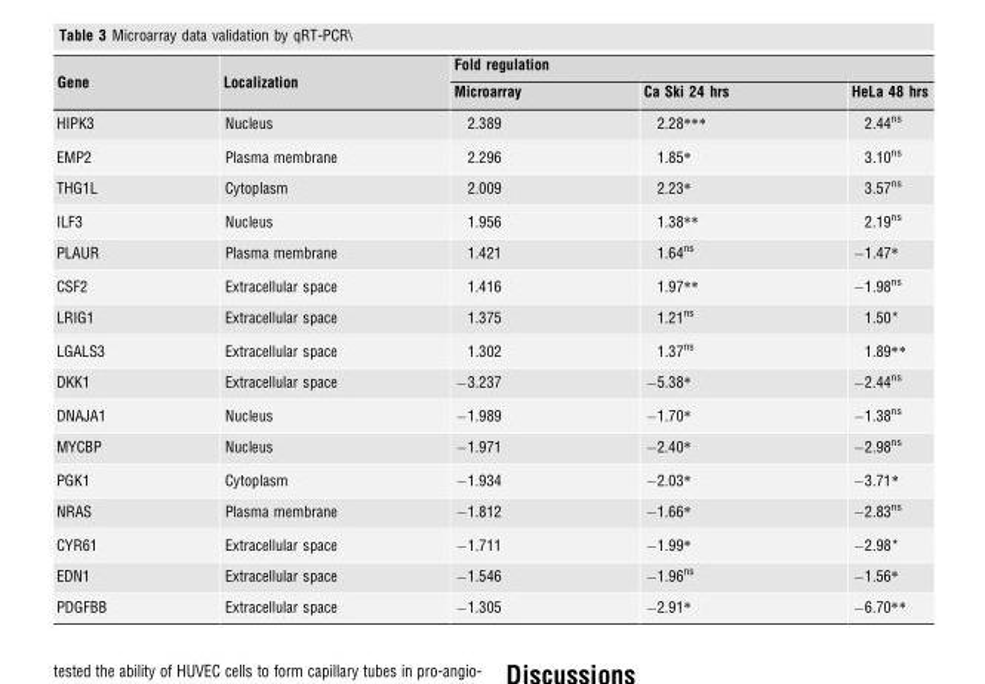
<table><thead><tr><td rowspan="2">Gene</td><td rowspan="2">Localization</td><td colspan="3">Fold regulation</td></tr><tr><td>Microarray</td><td>Ca Ski 24 hrs</td><td>HeLa 48 hrs</td></tr></thead><tbody><tr><td>HIPK3</td><td>Nucleus</td><td>2.389</td><td>2.28***</td><td>2.44<sup>ns</sup></td></tr><tr><td>EMP2</td><td>Plasma membrane</td><td>2.296</td><td>1.85*</td><td>3.10<sup>ns</sup></td></tr><tr><td>THG1L</td><td>Cytoplasm</td><td>2.009</td><td>2.23*</td><td>3.57<sup>ns</sup></td></tr><tr><td>ILF3</td><td>Nucleus</td><td>1.956</td><td>1.38**</td><td>2.19<sup>ns</sup></td></tr><tr><td>PLAUR</td><td>Plasma membrane</td><td>1.421</td><td>1.64<sup>ns</sup></td><td>−1.47*</td></tr><tr><td>CSF2</td><td>Extracellular space</td><td>1.416</td><td>1.97**</td><td>−1.98<sup>ns</sup></td></tr><tr><td>LRIG1</td><td>Extracellular space</td><td>1.375</td><td>1.21<sup>ns</sup></td><td>1.50*</td></tr><tr><td>LGALS3</td><td>Extracellular space</td><td>1.302</td><td>1.37<sup>ns</sup></td><td>1.89**</td></tr><tr><td>DKK1</td><td>Extracellular space</td><td>−3.237</td><td>−5.38*</td><td>−2.44<sup>ns</sup></td></tr><tr><td>DNAJA1</td><td>Nucleus</td><td>−1.989</td><td>−1.70*</td><td>−1.38<sup>ns</sup></td></tr><tr><td>MYCBP</td><td>Nucleus</td><td>−1.971</td><td>−2.40*</td><td>−2.98<sup>ns</sup></td></tr><tr><td>PGK1</td><td>Cytoplasm</td><td>−1.934</td><td>−2.03*</td><td>−3.71*</td></tr><tr><td>NRAS</td><td>Plasma membrane</td><td>−1.812</td><td>−1.66*</td><td>−2.83<sup>ns</sup></td></tr><tr><td>CYR61</td><td>Extracellular space</td><td>−1.711</td><td>−1.99*</td><td>−2.98*</td></tr><tr><td>EDN1</td><td>Extracellular space</td><td>−1.546</td><td>−1.96<sup>ns</sup></td><td>−1.56*</td></tr><tr><td>PDGFBB</td><td>Extracellular space</td><td>−1.305</td><td>−2.91*</td><td>−6.70**</td></tr></tbody></table>